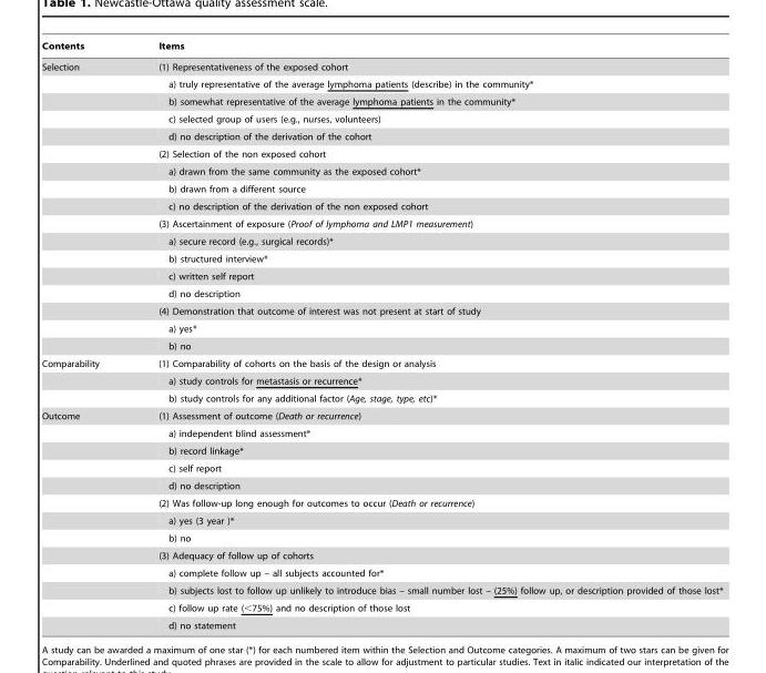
<table><thead><tr><td>Contents</td><td>Items</td></tr></thead><tbody><tr><td rowspan="17">Selection</td><td>(1) Representativeness of the exposed cohort</td></tr><tr><td>a) truly representative of the average lymphoma patients (describe) in the community*</td></tr><tr><td>b) somewhat representative of the average lymphoma patients in the community*</td></tr><tr><td>c) selected group of users (e.g., nurses, volunteers)</td></tr><tr><td>d) no description of the derivation of the cohort</td></tr><tr><td>(2) Selection of the non exposed cohort</td></tr><tr><td>a) drawn from the same community as the exposed cohort*</td></tr><tr><td>b) drawn from a different source</td></tr><tr><td>c) no description of the derivation of the non exposed cohort</td></tr><tr><td>(3) Ascertainment of exposure (Proof of lymphoma and LMP1 measurement)</td></tr><tr><td>a) secure record (e.g., surgical records)*</td></tr><tr><td>b) structured interview*</td></tr><tr><td>c) written self report</td></tr><tr><td>d) no description</td></tr><tr><td>(4) Demonstration that outcome of interest was not present at start of study</td></tr><tr><td>a) yes*</td></tr><tr><td>b) no</td></tr><tr><td rowspan="3">Comparability</td><td>(1) Comparability of cohorts on the basis of the design or analysis</td></tr><tr><td>a) study controls for metastasis or recurrence*</td></tr><tr><td>b) study controls for any additional factor (Age, stage, type, etc)*</td></tr><tr><td rowspan="13">Outcome</td><td>(1) Assessment of outcome (Death or recurrence)</td></tr><tr><td>a) independent blind assessment*</td></tr><tr><td>b) record linkage*</td></tr><tr><td>c) self report</td></tr><tr><td>d) no description</td></tr><tr><td>(2) Was follow-up long enough for outcomes to occur (Death or recurrence)</td></tr><tr><td>a) yes (3 year )*</td></tr><tr><td>b) no</td></tr><tr><td>(3) Adequacy of follow up of cohorts</td></tr><tr><td>a) complete follow up – all subjects accounted for*</td></tr><tr><td>b) subjects lost to follow up unlikely to introduce bias – small number lost – (25%) follow up, or description provided of those lost*</td></tr><tr><td>c) follow up rate (&lt;75%) and no description of those lost</td></tr><tr><td>d) no statement</td></tr></tbody></table>